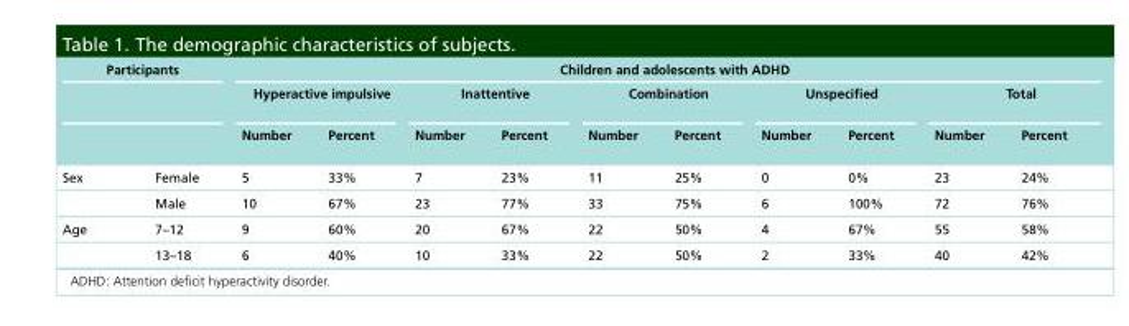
<table><thead><tr><td colspan="2">Participants</td><td colspan="10">Children and adolescents with ADHD</td></tr><tr><td rowspan="2"></td><td rowspan="2"></td><td colspan="2">Hyperactive impulsive</td><td colspan="2">Inattentive</td><td colspan="2">Combination</td><td colspan="2">Unspecified</td><td colspan="2">Total</td></tr><tr><td>Number</td><td>Percent</td><td>Number</td><td>Percent</td><td>Number</td><td>Percent</td><td>Number</td><td>Percent</td><td>Number</td><td>Percent</td></tr></thead><tbody><tr><td rowspan="2">Sex</td><td>Female</td><td>5</td><td>33%</td><td>7</td><td>23%</td><td>11</td><td>25%</td><td>0</td><td>0%</td><td>23</td><td>24%</td></tr><tr><td>Male</td><td>10</td><td>67%</td><td>23</td><td>77%</td><td>33</td><td>75%</td><td>6</td><td>100%</td><td>72</td><td>76%</td></tr><tr><td rowspan="2">Age</td><td>7–12</td><td>9</td><td>60%</td><td>20</td><td>67%</td><td>22</td><td>50%</td><td>4</td><td>67%</td><td>55</td><td>58%</td></tr><tr><td>13–18</td><td>6</td><td>40%</td><td>10</td><td>33%</td><td>22</td><td>50%</td><td>2</td><td>33%</td><td>40</td><td>42%</td></tr></tbody></table>